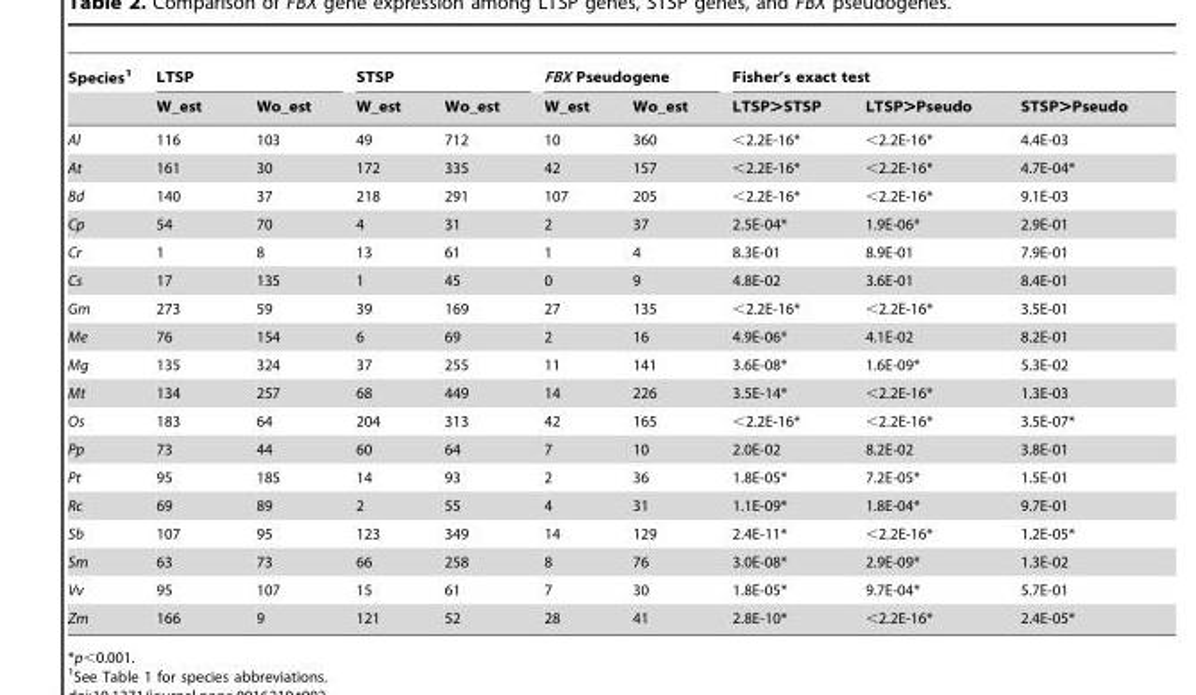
<table><thead><tr><td rowspan="2">Species<sup>1</sup></td><td colspan="2">LTSP</td><td colspan="2">STSP</td><td colspan="2">FBX Pseudogene</td><td colspan="3">Fisher’s exact test</td></tr><tr><td>W_est</td><td>Wo_est</td><td>W_est</td><td>Wo_est</td><td>W_est</td><td>Wo_est</td><td>LTSP&gt;STSP</td><td>LTSP&gt;Pseudo</td><td>STSP&gt;Pseudo</td></tr></thead><tbody><tr><td>Al</td><td>116</td><td>103</td><td>49</td><td>712</td><td>10</td><td>360</td><td>&lt;2.2E-16*</td><td>&lt;2.2E-16*</td><td>4.4E-03</td></tr><tr><td>At</td><td>161</td><td>30</td><td>172</td><td>335</td><td>42</td><td>157</td><td>&lt;2.2E-16*</td><td>&lt;2.2E-16*</td><td>4.7E-04*</td></tr><tr><td>Bd</td><td>140</td><td>37</td><td>218</td><td>291</td><td>107</td><td>205</td><td>&lt;2.2E-16*</td><td>&lt;2.2E-16*</td><td>9.1E-03</td></tr><tr><td>Cp</td><td>54</td><td>70</td><td>4</td><td>31</td><td>2</td><td>37</td><td>2.5E-04*</td><td>1.9E-06*</td><td>2.9E-01</td></tr><tr><td>Cr</td><td>1</td><td>8</td><td>13</td><td>61</td><td>1</td><td>4</td><td>8.3E-01</td><td>8.9E-01</td><td>7.9E-01</td></tr><tr><td>Cs</td><td>17</td><td>135</td><td>1</td><td>45</td><td>0</td><td>9</td><td>4.8E-02</td><td>3.6E-01</td><td>8.4E-01</td></tr><tr><td>Gm</td><td>273</td><td>59</td><td>39</td><td>169</td><td>27</td><td>135</td><td>&lt;2.2E-16*</td><td>&lt;2.2E-16*</td><td>3.5E-01</td></tr><tr><td>Me</td><td>76</td><td>154</td><td>6</td><td>69</td><td>2</td><td>16</td><td>4.9E-06*</td><td>4.1E-02</td><td>8.2E-01</td></tr><tr><td>Mg</td><td>135</td><td>324</td><td>37</td><td>255</td><td>11</td><td>141</td><td>3.6E-08*</td><td>1.6E-09*</td><td>5.3E-02</td></tr><tr><td>Mt</td><td>134</td><td>257</td><td>68</td><td>449</td><td>14</td><td>226</td><td>3.5E-14*</td><td>&lt;2.2E-16*</td><td>1.3E-03</td></tr><tr><td>Os</td><td>183</td><td>64</td><td>204</td><td>313</td><td>42</td><td>165</td><td>&lt;2.2E-16*</td><td>&lt;2.2E-16*</td><td>3.5E-07*</td></tr><tr><td>Pp</td><td>73</td><td>44</td><td>60</td><td>64</td><td>7</td><td>10</td><td>2.0E-02</td><td>8.2E-02</td><td>3.8E-01</td></tr><tr><td>Pt</td><td>95</td><td>185</td><td>14</td><td>93</td><td>2</td><td>36</td><td>1.8E-05*</td><td>7.2E-05*</td><td>1.5E-01</td></tr><tr><td>Rc</td><td>69</td><td>89</td><td>2</td><td>55</td><td>4</td><td>31</td><td>1.1E-09*</td><td>1.8E-04*</td><td>9.7E-01</td></tr><tr><td>Sb</td><td>107</td><td>95</td><td>123</td><td>349</td><td>14</td><td>129</td><td>2.4E-11*</td><td>&lt;2.2E-16*</td><td>1.2E-05*</td></tr><tr><td>Sm</td><td>63</td><td>73</td><td>66</td><td>258</td><td>8</td><td>76</td><td>3.0E-08*</td><td>2.9E-09*</td><td>1.3E-02</td></tr><tr><td>Vv</td><td>95</td><td>107</td><td>15</td><td>61</td><td>7</td><td>30</td><td>1.8E-05*</td><td>9.7E-04*</td><td>5.7E-01</td></tr><tr><td>Zm</td><td>166</td><td>9</td><td>121</td><td>52</td><td>28</td><td>41</td><td>2.8E-10*</td><td>&lt;2.2E-16*</td><td>2.4E-05*</td></tr></tbody></table>